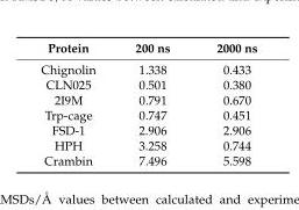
<table><thead><tr><td>Protein</td><td>200 ns</td><td>2000 ns</td></tr></thead><tbody><tr><td>Chignolin</td><td>1.338</td><td>0.433</td></tr><tr><td>CLN025</td><td>0.501</td><td>0.380</td></tr><tr><td>2I9M</td><td>0.791</td><td>0.670</td></tr><tr><td>Trp-cage</td><td>0.747</td><td>0.451</td></tr><tr><td>FSD-1</td><td>2.906</td><td>2.906</td></tr><tr><td>HPH</td><td>3.258</td><td>0.744</td></tr><tr><td>Crambin</td><td>7.496</td><td>5.598</td></tr></tbody></table>